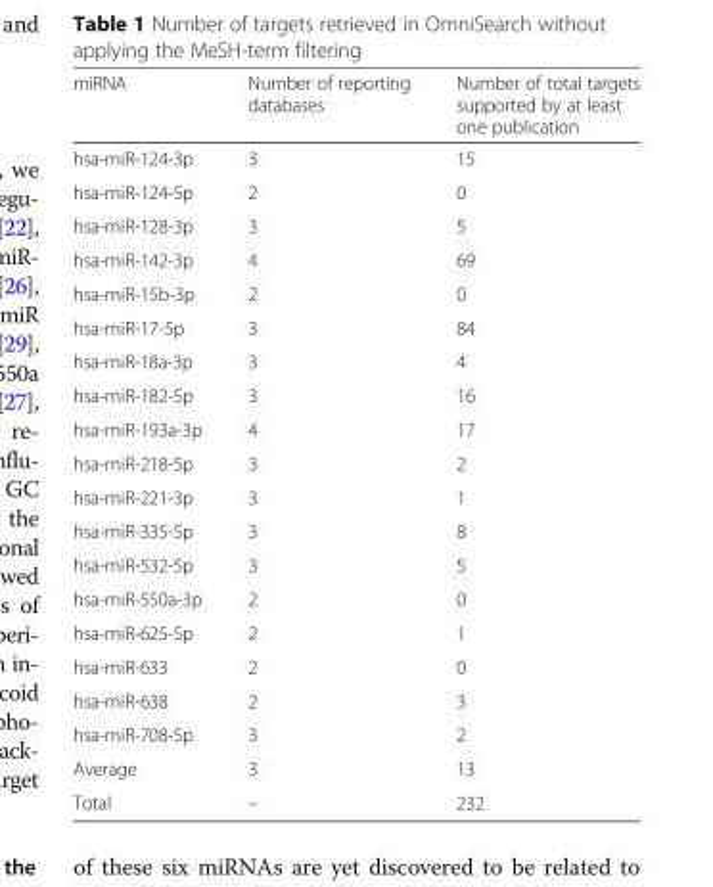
<table><thead><tr><td>miRNA</td><td>Number of reporting databases</td><td>Number of total targets supported by at least one publication</td></tr></thead><tbody><tr><td>hsa-miR-124-3p</td><td>3</td><td>15</td></tr><tr><td>hsa-miR-124-5p</td><td>2</td><td>0</td></tr><tr><td>hsa-miR-128-3p</td><td>3</td><td>5</td></tr><tr><td>hsa-miR-142-3p</td><td>4</td><td>69</td></tr><tr><td>hsa-miR-15b-3p</td><td>2</td><td>0</td></tr><tr><td>hsa-miR-17-5p</td><td>3</td><td>84</td></tr><tr><td>hsa-miR-18a-3p</td><td>3</td><td>4</td></tr><tr><td>hsa-miR-182-5p</td><td>3</td><td>16</td></tr><tr><td>hsa-miR-193a-3p</td><td>4</td><td>17</td></tr><tr><td>hsa-miR-218-5p</td><td>3</td><td>2</td></tr><tr><td>hsa-miR-221-3p</td><td>3</td><td>1</td></tr><tr><td>hsa-miR-335-5p</td><td>3</td><td>8</td></tr><tr><td>hsa-miR-532-5p</td><td>3</td><td>5</td></tr><tr><td>hsa-miR-550a-3p</td><td>2</td><td>0</td></tr><tr><td>hsa-miR-625-5p</td><td>2</td><td>1</td></tr><tr><td>hsa-miR-633</td><td>2</td><td>0</td></tr><tr><td>hsa-miR-638</td><td>2</td><td>3</td></tr><tr><td>hsa-miR-708-5p</td><td>3</td><td>2</td></tr><tr><td>Average</td><td>3</td><td>13</td></tr><tr><td>Total</td><td>–</td><td>232</td></tr></tbody></table>